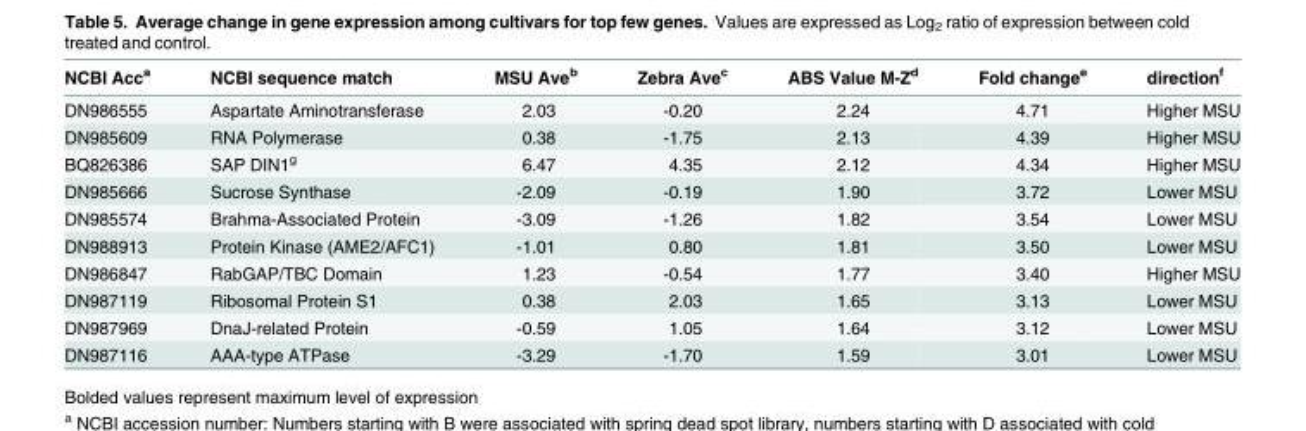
<table><thead><tr><td>NCBI Acc<sup>a</sup></td><td>NCBI sequence match</td><td>MSU Ave<sup>b</sup></td><td>Zebra Ave<sup>c</sup></td><td>ABS Value M-Z<sup>d</sup></td><td>Fold change<sup>e</sup></td><td>direction<sup>f</sup></td></tr></thead><tbody><tr><td>DN986555</td><td>Aspartate Aminotransferase</td><td>2.03</td><td>-0.20</td><td>2.24</td><td>4.71</td><td>Higher MSU</td></tr><tr><td>DN985609</td><td>RNA Polymerase</td><td>0.38</td><td>-1.75</td><td>2.13</td><td>4.39</td><td>Higher MSU</td></tr><tr><td>BQ826386</td><td>SAP DIN1<sup>g</sup></td><td>6.47</td><td>4.35</td><td>2.12</td><td>4.34</td><td>Higher MSU</td></tr><tr><td>DN985666</td><td>Sucrose Synthase</td><td>-2.09</td><td>-0.19</td><td>1.90</td><td>3.72</td><td>Lower MSU</td></tr><tr><td>DN985574</td><td>Brahma-Associated Protein</td><td>-3.09</td><td>-1.26</td><td>1.82</td><td>3.54</td><td>Lower MSU</td></tr><tr><td>DN988913</td><td>Protein Kinase (AME2/AFC1)</td><td>-1.01</td><td>0.80</td><td>1.81</td><td>3.50</td><td>Lower MSU</td></tr><tr><td>DN986847</td><td>RabGAP/TBC Domain</td><td>1.23</td><td>-0.54</td><td>1.77</td><td>3.40</td><td>Higher MSU</td></tr><tr><td>DN987119</td><td>Ribosomal Protein S1</td><td>0.38</td><td>2.03</td><td>1.65</td><td>3.13</td><td>Lower MSU</td></tr><tr><td>DN987969</td><td>DnaJ-related Protein</td><td>-0.59</td><td>1.05</td><td>1.64</td><td>3.12</td><td>Lower MSU</td></tr><tr><td>DN987116</td><td>AAA-type ATPase</td><td>-3.29</td><td>-1.70</td><td>1.59</td><td>3.01</td><td>Lower MSU</td></tr></tbody></table>